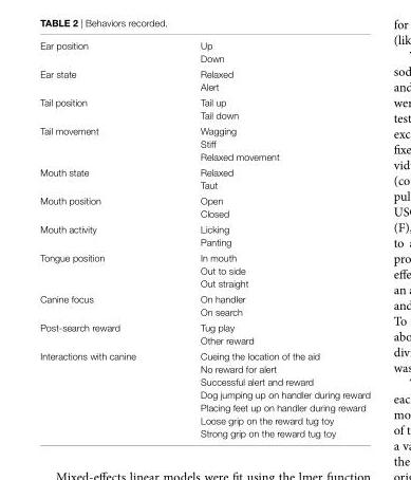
<table><tbody><tr><td rowspan="2">Ear position</td><td>Up</td></tr><tr><td>Down</td></tr><tr><td rowspan="2">Ear state</td><td>Relaxed</td></tr><tr><td>Alert</td></tr><tr><td rowspan="2">Tail position</td><td>Tail up</td></tr><tr><td>Tail down</td></tr><tr><td rowspan="3">Tail movement</td><td>Wagging</td></tr><tr><td>Stiff</td></tr><tr><td>Relaxed movement</td></tr><tr><td rowspan="2">Mouth state</td><td>Relaxed</td></tr><tr><td>Taut</td></tr><tr><td rowspan="2">Mouth position</td><td>Open</td></tr><tr><td>Closed</td></tr><tr><td rowspan="2">Mouth activity</td><td>Licking</td></tr><tr><td>Panting</td></tr><tr><td rowspan="3">Tongue position</td><td>In mouth</td></tr><tr><td>Out to side</td></tr><tr><td>Out straight</td></tr><tr><td rowspan="2">Canine focus</td><td>On handler</td></tr><tr><td>On search</td></tr><tr><td rowspan="2">Post-search reward</td><td>Tug play</td></tr><tr><td>Other reward</td></tr><tr><td rowspan="7">Interactions with canine</td><td>Cueing the location of the aid</td></tr><tr><td>No reward for alert</td></tr><tr><td>Successful alert and reward</td></tr><tr><td>Dog jumping up on handler during reward</td></tr><tr><td>Placing feet up on handler during reward</td></tr><tr><td>Loose grip on the reward tug toy</td></tr><tr><td>Strong grip on the reward tug toy</td></tr></tbody></table>